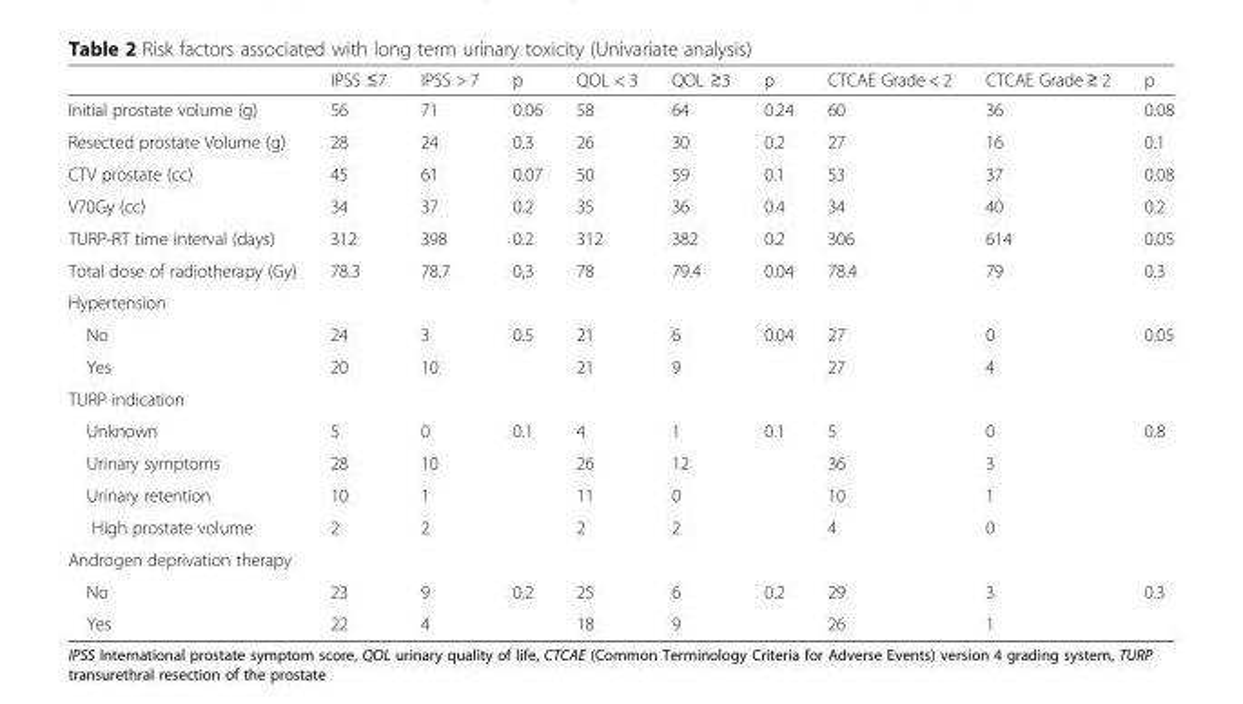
<table><thead><tr><td></td><td>IPSS ≤7</td><td>IPSS &gt; 7</td><td>p</td><td>QOL &lt; 3</td><td>QOL ≥3</td><td>p</td><td>CTCAE Grade &lt; 2</td><td>CTCAE Grade ≥ 2</td><td>p</td></tr></thead><tbody><tr><td>Initial prostate volume (g)</td><td>56</td><td>71</td><td>0.06</td><td>58</td><td>64</td><td>0.24</td><td>60</td><td>36</td><td>0.08</td></tr><tr><td>Resected prostate Volume (g)</td><td>28</td><td>24</td><td>0.3</td><td>26</td><td>30</td><td>0.2</td><td>27</td><td>16</td><td>0.1</td></tr><tr><td>CTV prostate (cc)</td><td>45</td><td>61</td><td>0.07</td><td>50</td><td>59</td><td>0.1</td><td>53</td><td>37</td><td>0.08</td></tr><tr><td>V70Gy (cc)</td><td>34</td><td>37</td><td>0.2</td><td>35</td><td>36</td><td>0.4</td><td>34</td><td>40</td><td>0.2</td></tr><tr><td>TURP-RT time interval (days)</td><td>312</td><td>398</td><td>0.2</td><td>312</td><td>382</td><td>0.2</td><td>306</td><td>614</td><td>0.05</td></tr><tr><td>Total dose of radiotherapy (Gy)</td><td>78.3</td><td>78.7</td><td>0,3</td><td>78</td><td>79.4</td><td>0.04</td><td>78.4</td><td>79</td><td>0.3</td></tr><tr><td colspan="10">Hypertension</td></tr><tr><td>No</td><td>24</td><td>3</td><td>0.5</td><td>21</td><td>6</td><td>0.04</td><td>27</td><td>0</td><td>0.05</td></tr><tr><td>Yes</td><td>20</td><td>10</td><td></td><td>21</td><td>9</td><td></td><td>27</td><td>4</td><td></td></tr><tr><td colspan="10">TURP indication</td></tr><tr><td>Unknown</td><td>5</td><td>0</td><td>0.1</td><td>4</td><td>1</td><td>0.1</td><td>5</td><td>0</td><td>0.8</td></tr><tr><td>Urinary symptoms</td><td>28</td><td>10</td><td></td><td>26</td><td>12</td><td></td><td>36</td><td>3</td><td></td></tr><tr><td>Urinary retention</td><td>10</td><td>1</td><td></td><td>11</td><td>0</td><td></td><td>10</td><td>1</td><td></td></tr><tr><td>High prostate volume</td><td>2</td><td>2</td><td></td><td>2</td><td>2</td><td></td><td>4</td><td>0</td><td></td></tr><tr><td colspan="10">Androgen deprivation therapy</td></tr><tr><td>No</td><td>23</td><td>9</td><td>0.2</td><td>25</td><td>6</td><td>0.2</td><td>29</td><td>3</td><td>0.3</td></tr><tr><td>Yes</td><td>22</td><td>4</td><td></td><td>18</td><td>9</td><td></td><td>26</td><td>1</td><td></td></tr></tbody></table>